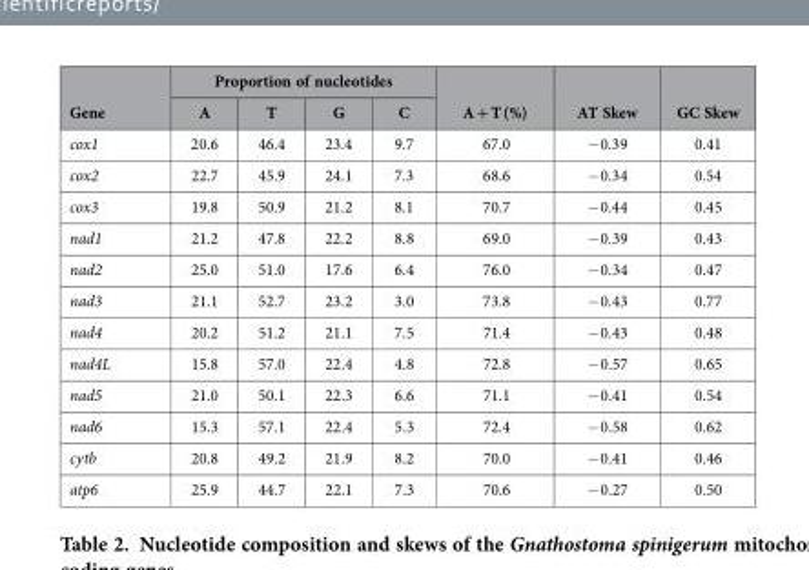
<table><thead><tr><td rowspan="2">Gene</td><td colspan="4">Proportion of nucleotides</td><td rowspan="2">A + T (%)</td><td rowspan="2">AT Skew</td><td rowspan="2">GC Skew</td></tr><tr><td>A</td><td>T</td><td>G</td><td>C</td></tr></thead><tbody><tr><td>cox1</td><td>20.6</td><td>46.4</td><td>23.4</td><td>9.7</td><td>67.0</td><td>− 0.39</td><td>0.41</td></tr><tr><td>cox2</td><td>22.7</td><td>45.9</td><td>24.1</td><td>7.3</td><td>68.6</td><td>− 0.34</td><td>0.54</td></tr><tr><td>cox3</td><td>19.8</td><td>50.9</td><td>21.2</td><td>8.1</td><td>70.7</td><td>− 0.44</td><td>0.45</td></tr><tr><td>nad1</td><td>21.2</td><td>47.8</td><td>22.2</td><td>8.8</td><td>69.0</td><td>− 0.39</td><td>0.43</td></tr><tr><td>nad2</td><td>25.0</td><td>51.0</td><td>17.6</td><td>6.4</td><td>76.0</td><td>− 0.34</td><td>0.47</td></tr><tr><td>nad3</td><td>21.1</td><td>52.7</td><td>23.2</td><td>3.0</td><td>73.8</td><td>− 0.43</td><td>0.77</td></tr><tr><td>nad4</td><td>20.2</td><td>51.2</td><td>21.1</td><td>7.5</td><td>71.4</td><td>− 0.43</td><td>0.48</td></tr><tr><td>nad4L</td><td>15.8</td><td>57.0</td><td>22.4</td><td>4.8</td><td>72.8</td><td>− 0.57</td><td>0.65</td></tr><tr><td>nad5</td><td>21.0</td><td>50.1</td><td>22.3</td><td>6.6</td><td>71.1</td><td>− 0.41</td><td>0.54</td></tr><tr><td>nad6</td><td>15.3</td><td>57.1</td><td>22.4</td><td>5.3</td><td>72.4</td><td>− 0.58</td><td>0.62</td></tr><tr><td>cytb</td><td>20.8</td><td>49.2</td><td>21.9</td><td>8.2</td><td>70.0</td><td>− 0.41</td><td>0.46</td></tr><tr><td>atp6</td><td>25.9</td><td>44.7</td><td>22.1</td><td>7.3</td><td>70.6</td><td>− 0.27</td><td>0.50</td></tr></tbody></table>